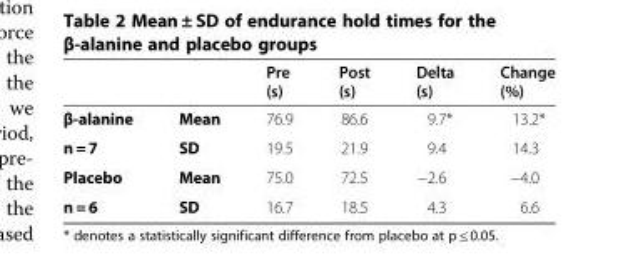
<table><thead><tr><td></td><td></td><td>Pre (s)</td><td>Post (s)</td><td>Delta (s)</td><td>Change (%)</td></tr></thead><tbody><tr><td>β-alanine</td><td>Mean</td><td>76.9</td><td>86.6</td><td>9.7*</td><td>13.2*</td></tr><tr><td>n = 7</td><td>SD</td><td>19.5</td><td>21.9</td><td>9.4</td><td>14.3</td></tr><tr><td>Placebo</td><td>Mean</td><td>75.0</td><td>72.5</td><td>−2.6</td><td>−4.0</td></tr><tr><td>n = 6</td><td>SD</td><td>16.7</td><td>18.5</td><td>4.3</td><td>6.6</td></tr></tbody></table>